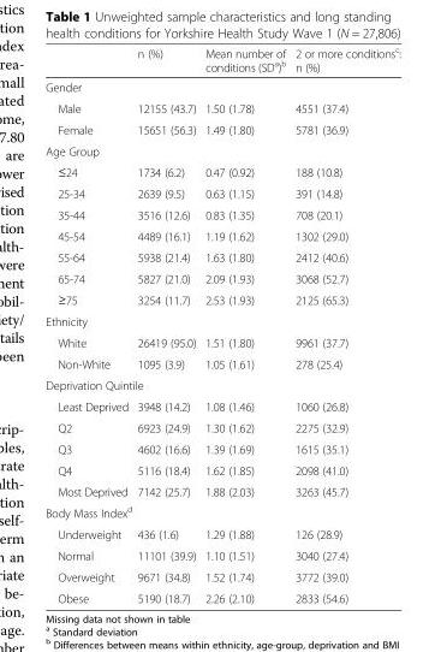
<table><thead><tr><td></td><td>n (%)</td><td>Mean number of conditions (SD<sup>a</sup>)<sup>b</sup></td><td>2 or more conditions<sup>c</sup>: n (%)</td></tr></thead><tbody><tr><td colspan="4">Gender</td></tr><tr><td>Male</td><td>12155 (43.7)</td><td>1.50 (1.78)</td><td>4551 (37.4)</td></tr><tr><td>Female</td><td>15651 (56.3)</td><td>1.49 (1.80)</td><td>5781 (36.9)</td></tr><tr><td colspan="4">Age Group</td></tr><tr><td>≤24</td><td>1734 (6.2)</td><td>0.47 (0.92)</td><td>188 (10.8)</td></tr><tr><td>25-34</td><td>2639 (9.5)</td><td>0.63 (1.15)</td><td>391 (14.8)</td></tr><tr><td>35-44</td><td>3516 (12.6)</td><td>0.83 (1.35)</td><td>708 (20.1)</td></tr><tr><td>45-54</td><td>4489 (16.1)</td><td>1.19 (1.62)</td><td>1302 (29.0)</td></tr><tr><td>55-64</td><td>5938 (21.4)</td><td>1.63 (1.80)</td><td>2412 (40.6)</td></tr><tr><td>65-74</td><td>5827 (21.0)</td><td>2.09 (1.93)</td><td>3068 (52.7)</td></tr><tr><td>≥75</td><td>3254 (11.7)</td><td>2.53 (1.93)</td><td>2125 (65.3)</td></tr><tr><td colspan="4">Ethnicity</td></tr><tr><td>White</td><td>26419 (95.0)</td><td>1.51 (1.80)</td><td>9961 (37.7)</td></tr><tr><td>Non-White</td><td>1095 (3.9)</td><td>1.05 (1.61)</td><td>278 (25.4)</td></tr><tr><td colspan="4">Deprivation Quintile</td></tr><tr><td>Least Deprived</td><td>3948 (14.2)</td><td>1.08 (1.46)</td><td>1060 (26.8)</td></tr><tr><td>Q2</td><td>6923 (24.9)</td><td>1.30 (1.62)</td><td>2275 (32.9)</td></tr><tr><td>Q3</td><td>4602 (16.6)</td><td>1.39 (1.69)</td><td>1615 (35.1)</td></tr><tr><td>Q4</td><td>5116 (18.4)</td><td>1.62 (1.85)</td><td>2098 (41.0)</td></tr><tr><td>Most Deprived</td><td>7142 (25.7)</td><td>1.88 (2.03)</td><td>3263 (45.7)</td></tr><tr><td colspan="4">Body Mass Index<sup>d</sup></td></tr><tr><td>Underweight</td><td>436 (1.6)</td><td>1.29 (1.88)</td><td>126 (28.9)</td></tr><tr><td>Normal</td><td>11101 (39.9)</td><td>1.10 (1.51)</td><td>3040 (27.4)</td></tr><tr><td>Overweight</td><td>9671 (34.8)</td><td>1.52 (1.74)</td><td>3772 (39.0)</td></tr><tr><td>Obese</td><td>5190 (18.7)</td><td>2.26 (2.10)</td><td>2833 (54.6)</td></tr></tbody></table>